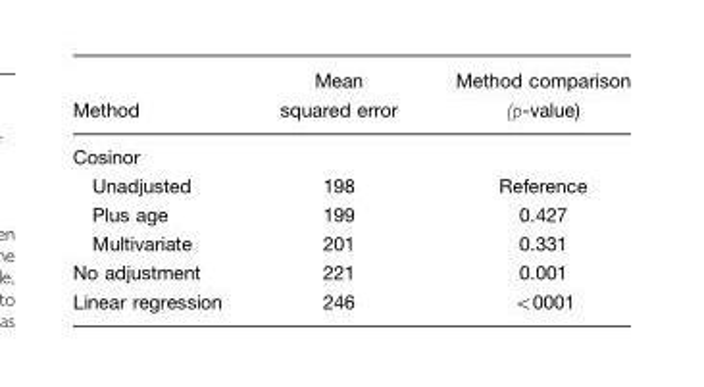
<table><thead><tr><td>Method</td><td>Mean squared error</td><td>Method comparison (p-value)</td></tr></thead><tbody><tr><td colspan="3">Cosinor</td></tr><tr><td>Unadjusted</td><td>198</td><td>Reference</td></tr><tr><td>Plus age</td><td>199</td><td>0.427</td></tr><tr><td>Multivariate</td><td>201</td><td>0.331</td></tr><tr><td>No adjustment</td><td>221</td><td>0.001</td></tr><tr><td>Linear regression</td><td>246</td><td>&lt;0001</td></tr></tbody></table>